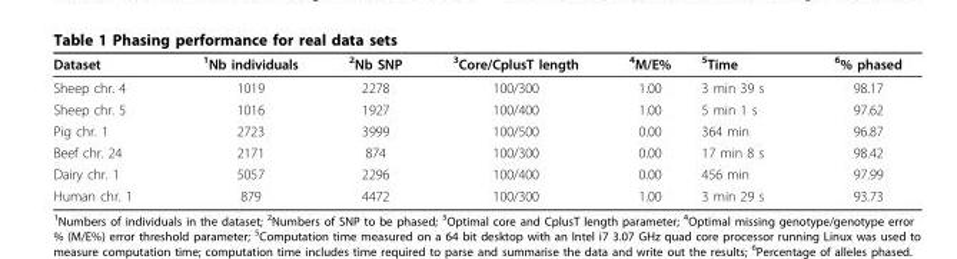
<table><thead><tr><td>Dataset</td><td><sup>1</sup>Nb individuals</td><td><sup>2</sup>Nb SNP</td><td><sup>3</sup>Core/CplusT length</td><td><sup>4</sup>M/E%</td><td><sup>5</sup>Time</td><td><sup>6</sup>% phased</td></tr></thead><tbody><tr><td>Sheep chr. 4</td><td>1019</td><td>2278</td><td>100/300</td><td>1.00</td><td>3 min 39 s</td><td>98.17</td></tr><tr><td>Sheep chr. 5</td><td>1016</td><td>1927</td><td>100/400</td><td>1.00</td><td>5 min 1 s</td><td>97.62</td></tr><tr><td>Pig chr. 1</td><td>2723</td><td>3999</td><td>100/500</td><td>0.00</td><td>364 min</td><td>96.87</td></tr><tr><td>Beef chr. 24</td><td>2171</td><td>874</td><td>100/300</td><td>0.00</td><td>17 min 8 s</td><td>98.42</td></tr><tr><td>Dairy chr. 1</td><td>5057</td><td>2296</td><td>100/400</td><td>0.00</td><td>456 min</td><td>97.99</td></tr><tr><td>Human chr. 1</td><td>879</td><td>4472</td><td>100/300</td><td>1.00</td><td>3 min 29 s</td><td>93.73</td></tr></tbody></table>